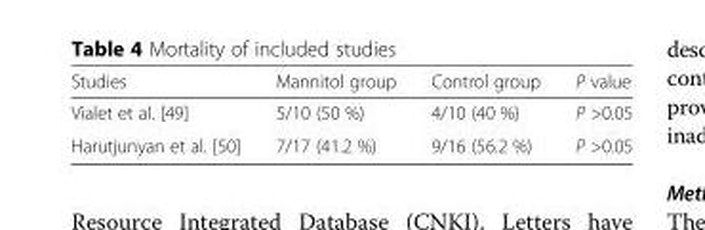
<table><thead><tr><td>Studies</td><td>Mannitol group</td><td>Control group</td><td>P value</td></tr></thead><tbody><tr><td>Vialet et al. [49]</td><td>5/10 (50 %)</td><td>4/10 (40 %)</td><td>P &gt;0.05</td></tr><tr><td>Harutjunyan et al. [50]</td><td>7/17 (41.2 %)</td><td>9/16 (56.2 %)</td><td>P &gt;0.05</td></tr></tbody></table>